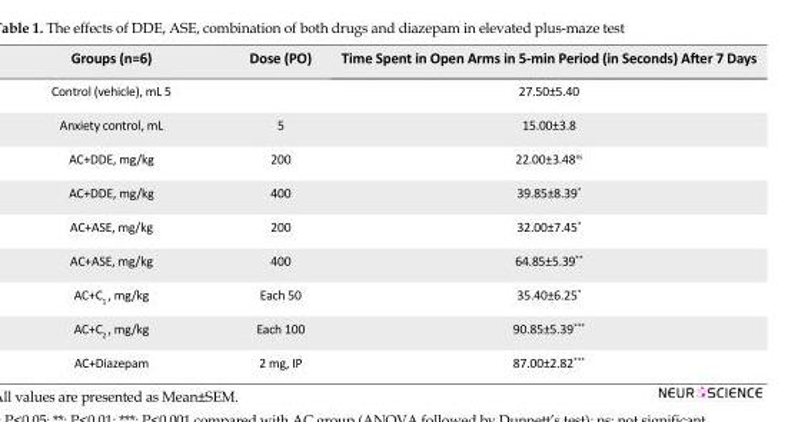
<table><thead><tr><td>Groups (n=6)</td><td>Dose (PO)</td><td>Time Spent in Open Arms in 5-min Period (in Seconds) After 7 Days</td></tr></thead><tbody><tr><td>Control (vehicle), mL 5</td><td></td><td>27.50±5.40</td></tr><tr><td>Anxiety control, mL</td><td>5</td><td>15.00±3.8</td></tr><tr><td>AC+DDE, mg/kg</td><td>200</td><td>22.00±3.48<sup>ns</sup></td></tr><tr><td>AC+DDE, mg/kg</td><td>400</td><td>39.85±8.39*</td></tr><tr><td>AC+ASE, mg/kg</td><td>200</td><td>32.00±7.45*</td></tr><tr><td>AC+ASE, mg/kg</td><td>400</td><td>64.85±5.39**</td></tr><tr><td>AC+C<sub>1</sub> , mg/kg</td><td>Each 50</td><td>35.40±6.25*</td></tr><tr><td>AC+C<sub>2</sub> , mg/kg</td><td>Each 100</td><td>90.85±5.39***</td></tr><tr><td>AC+Diazepam</td><td>2 mg, IP</td><td>87.00±2.82***</td></tr></tbody></table>